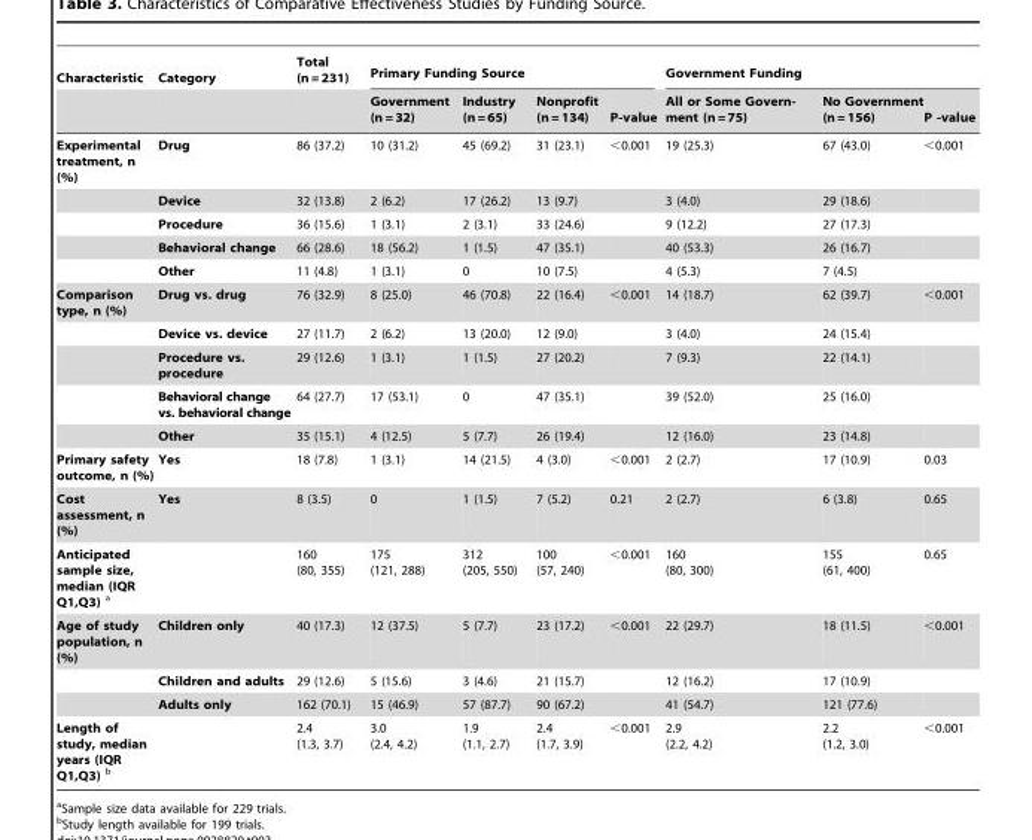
<table><thead><tr><td rowspan="2">Characteristic</td><td rowspan="2">Category</td><td rowspan="2">Total (n = 231)</td><td colspan="4">Primary Funding Source</td><td colspan="3">Government Funding</td></tr><tr><td>Government (n = 32)</td><td>Industry (n = 65)</td><td>Nonprofit (n = 134)</td><td>P-value</td><td>All or Some Govern- ment (n = 75)</td><td>No Government (n = 156)</td><td>P -value</td></tr></thead><tbody><tr><td rowspan="5">Experimental treatment, n (%)</td><td>Drug</td><td>86 (37.2)</td><td>10 (31.2)</td><td>45 (69.2)</td><td>31 (23.1)</td><td>&lt;0.001</td><td>19 (25.3)</td><td>67 (43.0)</td><td>&lt;0.001</td></tr><tr><td>Device</td><td>32 (13.8)</td><td>2 (6.2)</td><td>17 (26.2)</td><td>13 (9.7)</td><td></td><td>3 (4.0)</td><td>29 (18.6)</td><td></td></tr><tr><td>Procedure</td><td>36 (15.6)</td><td>1 (3.1)</td><td>2 (3.1)</td><td>33 (24.6)</td><td></td><td>9 (12.2)</td><td>27 (17.3)</td><td></td></tr><tr><td>Behavioral change</td><td>66 (28.6)</td><td>18 (56.2)</td><td>1 (1.5)</td><td>47 (35.1)</td><td></td><td>40 (53.3)</td><td>26 (16.7)</td><td></td></tr><tr><td>Other</td><td>11 (4.8)</td><td>1 (3.1)</td><td>0</td><td>10 (7.5)</td><td></td><td>4 (5.3)</td><td>7 (4.5)</td><td></td></tr><tr><td rowspan="5">Comparison type, n (%)</td><td>Drug vs. drug</td><td>76 (32.9)</td><td>8 (25.0)</td><td>46 (70.8)</td><td>22 (16.4)</td><td>&lt;0.001</td><td>14 (18.7)</td><td>62 (39.7)</td><td>&lt;0.001</td></tr><tr><td>Device vs. device</td><td>27 (11.7)</td><td>2 (6.2)</td><td>13 (20.0)</td><td>12 (9.0)</td><td></td><td>3 (4.0)</td><td>24 (15.4)</td><td></td></tr><tr><td>Procedure vs. procedure</td><td>29 (12.6)</td><td>1 (3.1)</td><td>1 (1.5)</td><td>27 (20.2)</td><td></td><td>7 (9.3)</td><td>22 (14.1)</td><td></td></tr><tr><td>Behavioral change vs. behavioral change</td><td>64 (27.7)</td><td>17 (53.1)</td><td>0</td><td>47 (35.1)</td><td></td><td>39 (52.0)</td><td>25 (16.0)</td><td></td></tr><tr><td>Other</td><td>35 (15.1)</td><td>4 (12.5)</td><td>5 (7.7)</td><td>26 (19.4)</td><td></td><td>12 (16.0)</td><td>23 (14.8)</td><td></td></tr><tr><td>Primary safety outcome, n (%)</td><td>Yes</td><td>18 (7.8)</td><td>1 (3.1)</td><td>14 (21.5)</td><td>4 (3.0)</td><td>&lt;0.001</td><td>2 (2.7)</td><td>17 (10.9)</td><td>0.03</td></tr><tr><td>Cost assessment, n (%)</td><td>Yes</td><td>8 (3.5)</td><td>0</td><td>1 (1.5)</td><td>7 (5.2)</td><td>0.21</td><td>2 (2.7)</td><td>6 (3.8)</td><td>0.65</td></tr><tr><td>Anticipated sample size, median (IQR Q1,Q3) a</td><td></td><td>160 (80, 355)</td><td>175 (121, 288)</td><td>312 (205, 550)</td><td>100 (57, 240)</td><td>&lt;0.001</td><td>160 (80, 300)</td><td>155 (61, 400)</td><td>0.65</td></tr><tr><td rowspan="3">Age of study population, n (%)</td><td>Children only</td><td>40 (17.3)</td><td>12 (37.5)</td><td>5 (7.7)</td><td>23 (17.2)</td><td>&lt;0.001</td><td>22 (29.7)</td><td>18 (11.5)</td><td>&lt;0.001</td></tr><tr><td>Children and adults</td><td>29 (12.6)</td><td>5 (15.6)</td><td>3 (4.6)</td><td>21 (15.7)</td><td></td><td>12 (16.2)</td><td>17 (10.9)</td><td></td></tr><tr><td>Adults only</td><td>162 (70.1)</td><td>15 (46.9)</td><td>57 (87.7)</td><td>90 (67.2)</td><td></td><td>41 (54.7)</td><td>121 (77.6)</td><td></td></tr><tr><td>Length of study, median years (IQR Q1,Q3) b</td><td></td><td>2.4 (1.3, 3.7)</td><td>3.0 (2.4, 4.2)</td><td>1.9 (1.1, 2.7)</td><td>2.4 (1.7, 3.9)</td><td>&lt;0.001</td><td>2.9 (2.2, 4.2)</td><td>2.2 (1.2, 3.0)</td><td>&lt;0.001</td></tr></tbody></table>